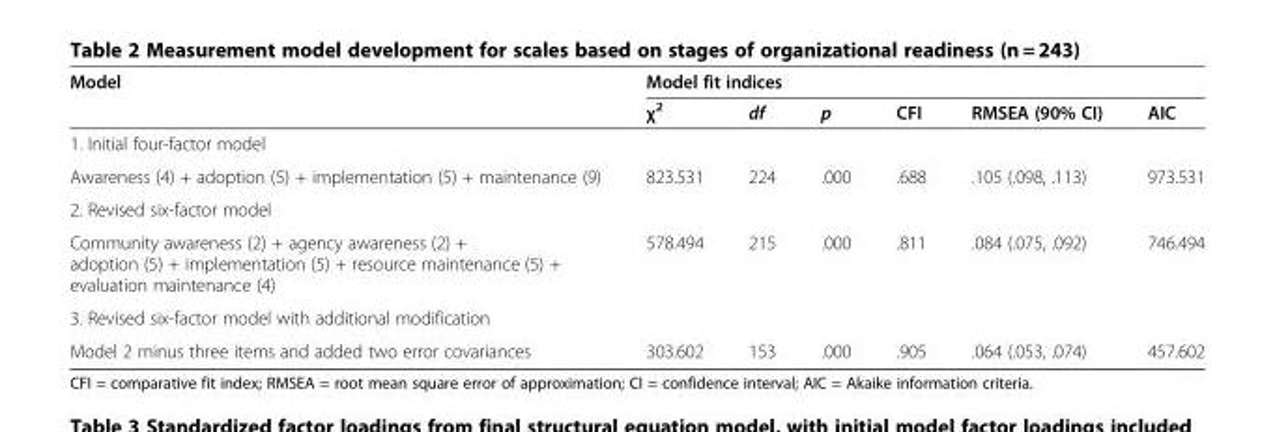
<table><thead><tr><td rowspan="2">Model</td><td colspan="6">Model fit indices</td></tr><tr><td>χ<sup>2</sup></td><td>df</td><td>p</td><td>CFI</td><td>RMSEA (90% CI)</td><td>AIC</td></tr></thead><tbody><tr><td colspan="7">1. Initial four-factor model</td></tr><tr><td>Awareness (4) + adoption (5) + implementation (5) + maintenance (9)</td><td>823.531</td><td>224</td><td>.000</td><td>.688</td><td>.105 (.098, .113)</td><td>973.531</td></tr><tr><td colspan="7">2. Revised six-factor model</td></tr><tr><td>Community awareness (2) + agency awareness (2) + adoption (5) + implementation (5) + resource maintenance (5) + evaluation maintenance (4)</td><td>578.494</td><td>215</td><td>.000</td><td>.811</td><td>.084 (.075, .092)</td><td>746.494</td></tr><tr><td colspan="7">3. Revised six-factor model with additional modification</td></tr><tr><td>Model 2 minus three items and added two error covariances</td><td>303.602</td><td>153</td><td>.000</td><td>.905</td><td>.064 (.053, .074)</td><td>457.602</td></tr></tbody></table>